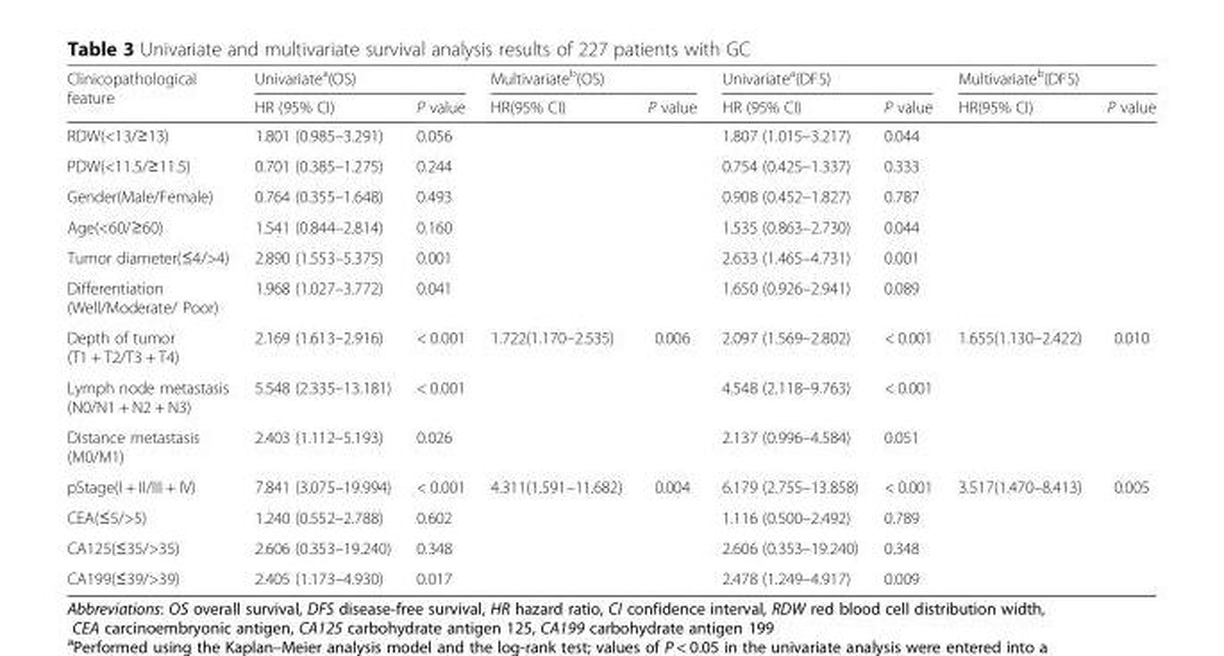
<table><thead><tr><td rowspan="2">Clinicopathological feature</td><td colspan="2">Univariate<sup>a</sup>(OS)</td><td colspan="2">Multivariate<sup>b</sup>(OS)</td><td colspan="2">Univariate<sup>a</sup>(DFS)</td><td colspan="2">Multivariate<sup>b</sup>(DFS)</td></tr><tr><td>HR (95% CI)</td><td>P value</td><td>HR(95% CI)</td><td>P value</td><td>HR (95% CI)</td><td>P value</td><td>HR(95% CI)</td><td>P value</td></tr></thead><tbody><tr><td>RDW(&lt;13/≥13)</td><td>1.801 (0.985–3.291)</td><td>0.056</td><td></td><td></td><td>1.807 (1.015–3.217)</td><td>0.044</td><td></td><td></td></tr><tr><td>PDW(&lt;11.5/≥11.5)</td><td>0.701 (0.385–1.275)</td><td>0.244</td><td></td><td></td><td>0.754 (0.425–1.337)</td><td>0.333</td><td></td><td></td></tr><tr><td>Gender(Male/Female)</td><td>0.764 (0.355–1.648)</td><td>0.493</td><td></td><td></td><td>0.908 (0.452–1.827)</td><td>0.787</td><td></td><td></td></tr><tr><td>Age(&lt;60/≥60)</td><td>1.541 (0.844–2.814)</td><td>0.160</td><td></td><td></td><td>1.535 (0.863–2.730)</td><td>0.044</td><td></td><td></td></tr><tr><td>Tumor diameter(≤4/&gt;4)</td><td>2.890 (1.553–5.375)</td><td>0.001</td><td></td><td></td><td>2.633 (1.465–4.731)</td><td>0.001</td><td></td><td></td></tr><tr><td>Differentiation (Well/Moderate/ Poor)</td><td>1.968 (1.027–3.772)</td><td>0.041</td><td></td><td></td><td>1.650 (0.926–2.941)</td><td>0.089</td><td></td><td></td></tr><tr><td>Depth of tumor (T1 + T2/T3 + T4)</td><td>2.169 (1.613–2.916)</td><td>&lt; 0.001</td><td>1.722(1.170–2.535)</td><td>0.006</td><td>2.097 (1.569–2.802)</td><td>&lt; 0.001</td><td>1.655(1.130–2.422)</td><td>0.010</td></tr><tr><td>Lymph node metastasis (N0/N1 + N2 + N3)</td><td>5.548 (2.335–13.181)</td><td>&lt; 0.001</td><td></td><td></td><td>4.548 (2.118–9.763)</td><td>&lt; 0.001</td><td></td><td></td></tr><tr><td>Distance metastasis (M0/M1)</td><td>2.403 (1.112–5.193)</td><td>0.026</td><td></td><td></td><td>2.137 (0.996–4.584)</td><td>0.051</td><td></td><td></td></tr><tr><td>pStage(I + II/III + IV)</td><td>7.841 (3.075–19.994)</td><td>&lt; 0.001</td><td>4.311(1.591–11.682)</td><td>0.004</td><td>6.179 (2.755–13.858)</td><td>&lt; 0.001</td><td>3.517(1.470–8.413)</td><td>0.005</td></tr><tr><td>CEA(≤5/&gt;5)</td><td>1.240 (0.552–2.788)</td><td>0.602</td><td></td><td></td><td>1.116 (0.500–2.492)</td><td>0.789</td><td></td><td></td></tr><tr><td>CA125(≤35/&gt;35)</td><td>2.606 (0.353–19.240)</td><td>0.348</td><td></td><td></td><td>2.606 (0.353–19.240)</td><td>0.348</td><td></td><td></td></tr><tr><td>CA199(≤39/&gt;39)</td><td>2.405 (1.173–4.930)</td><td>0.017</td><td></td><td></td><td>2.478 (1.249–4.917)</td><td>0.009</td><td></td><td></td></tr></tbody></table>